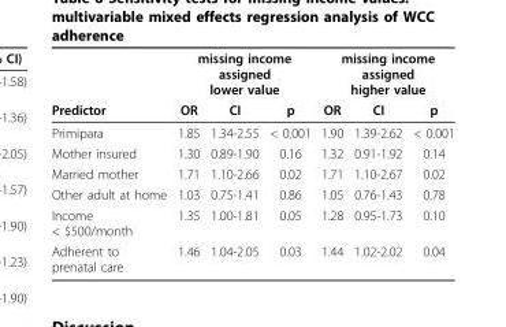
<table><thead><tr><td rowspan="2">Predictor</td><td colspan="3">missing income assigned lower value</td><td colspan="3">missing income assigned higher value</td></tr><tr><td>OR</td><td>CI</td><td>p</td><td>OR</td><td>CI</td><td>p</td></tr></thead><tbody><tr><td>Primipara</td><td>1.85</td><td>1.34-2.55</td><td>&lt; 0.001</td><td>1.90</td><td>1.39-2.62</td><td>&lt; 0.001</td></tr><tr><td>Mother insured</td><td>1.30</td><td>0.89-1.90</td><td>0.16</td><td>1.32</td><td>0.91-1.92</td><td>0.14</td></tr><tr><td>Married mother</td><td>1.71</td><td>1.10-2.66</td><td>0.02</td><td>1.71</td><td>1.10-2.67</td><td>0.02</td></tr><tr><td>Other adult at home</td><td>1.03</td><td>0.75-1.41</td><td>0.86</td><td>1.05</td><td>0.76-1.43</td><td>0.78</td></tr><tr><td>Income &lt; $500/month</td><td>1.35</td><td>1.00-1.81</td><td>0.05</td><td>1.28</td><td>0.95-1.73</td><td>0.10</td></tr><tr><td>Adherent to prenatal care</td><td>1.46</td><td>1.04-2.05</td><td>0.03</td><td>1.44</td><td>1.02-2.02</td><td>0.04</td></tr></tbody></table>